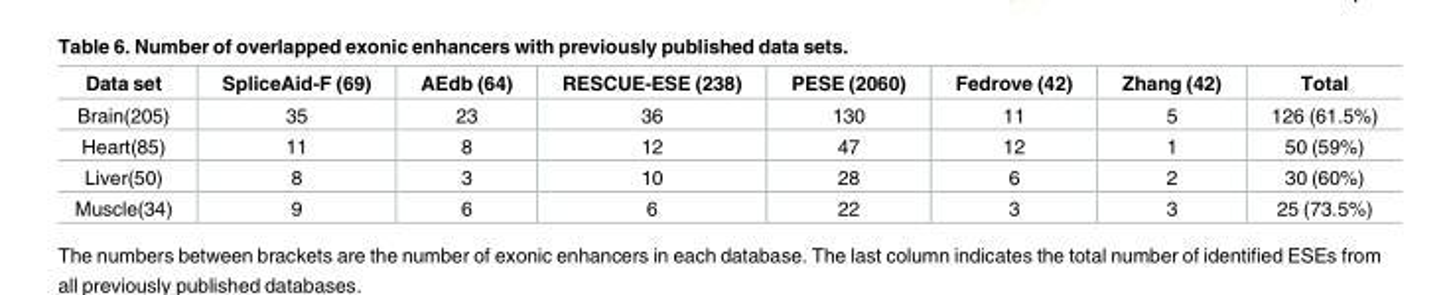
<table><thead><tr><td>Data set</td><td>SpliceAid-F (69)</td><td>AEdb (64)</td><td>RESCUE-ESE (238)</td><td>PESE (2060)</td><td>Fedrove (42)</td><td>Zhang (42)</td><td>Total</td></tr></thead><tbody><tr><td>Brain(205)</td><td>35</td><td>23</td><td>36</td><td>130</td><td>11</td><td>5</td><td>126 (61.5%)</td></tr><tr><td>Heart(85)</td><td>11</td><td>8</td><td>12</td><td>47</td><td>12</td><td>1</td><td>50 (59%)</td></tr><tr><td>Liver(50)</td><td>8</td><td>3</td><td>10</td><td>28</td><td>6</td><td>2</td><td>30 (60%)</td></tr><tr><td>Muscle(34)</td><td>9</td><td>6</td><td>6</td><td>22</td><td>3</td><td>3</td><td>25 (73.5%)</td></tr></tbody></table>